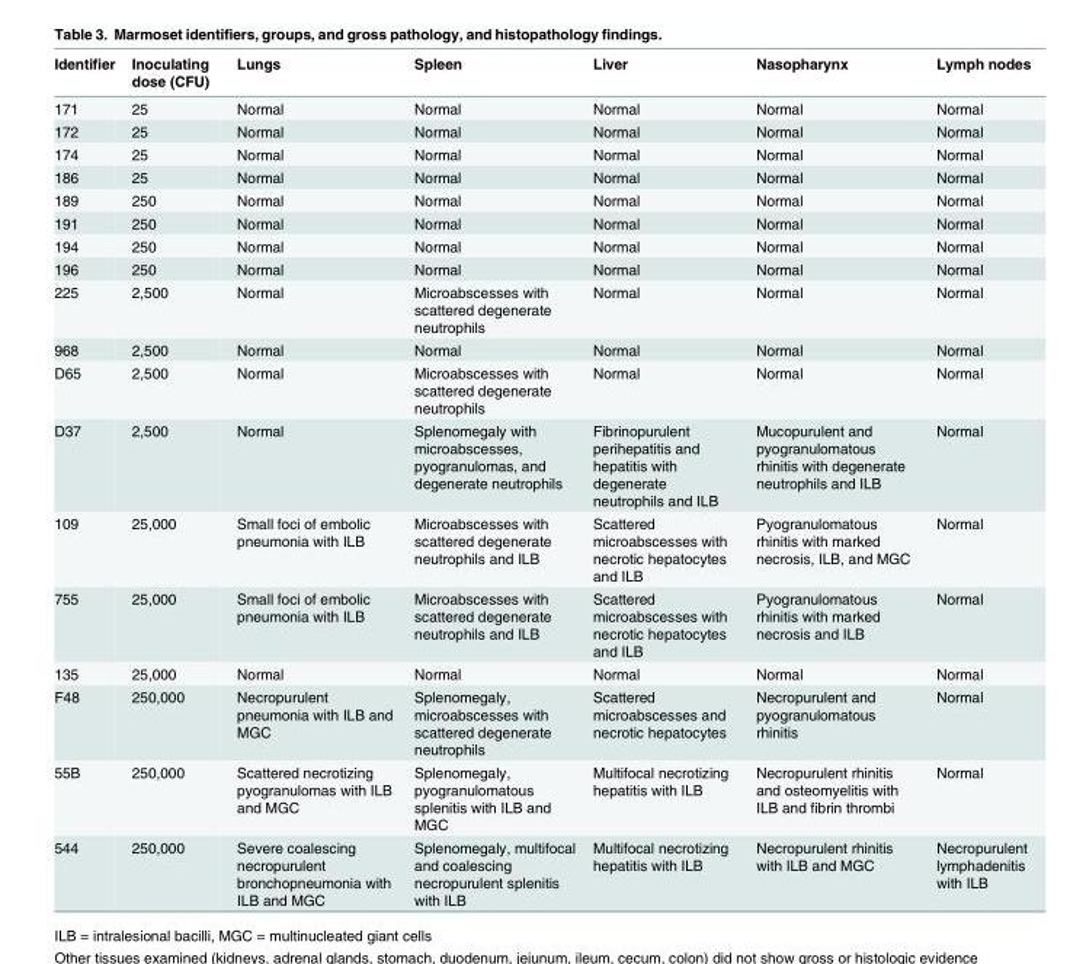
<table><thead><tr><td>Identifier</td><td>Inoculating dose (CFU)</td><td>Lungs</td><td>Spleen</td><td>Liver</td><td>Nasopharynx</td><td>Lymph nodes</td></tr></thead><tbody><tr><td>171</td><td>25</td><td>Normal</td><td>Normal</td><td>Normal</td><td>Normal</td><td>Normal</td></tr><tr><td>172</td><td>25</td><td>Normal</td><td>Normal</td><td>Normal</td><td>Normal</td><td>Normal</td></tr><tr><td>174</td><td>25</td><td>Normal</td><td>Normal</td><td>Normal</td><td>Normal</td><td>Normal</td></tr><tr><td>186</td><td>25</td><td>Normal</td><td>Normal</td><td>Normal</td><td>Normal</td><td>Normal</td></tr><tr><td>189</td><td>250</td><td>Normal</td><td>Normal</td><td>Normal</td><td>Normal</td><td>Normal</td></tr><tr><td>191</td><td>250</td><td>Normal</td><td>Normal</td><td>Normal</td><td>Normal</td><td>Normal</td></tr><tr><td>194</td><td>250</td><td>Normal</td><td>Normal</td><td>Normal</td><td>Normal</td><td>Normal</td></tr><tr><td>196</td><td>250</td><td>Normal</td><td>Normal</td><td>Normal</td><td>Normal</td><td>Normal</td></tr><tr><td>225</td><td>2,500</td><td>Normal</td><td>Microabscesses with scattered degenerate neutrophils</td><td>Normal</td><td>Normal</td><td>Normal</td></tr><tr><td>968</td><td>2,500</td><td>Normal</td><td>Normal</td><td>Normal</td><td>Normal</td><td>Normal</td></tr><tr><td>D65</td><td>2,500</td><td>Normal</td><td>Microabscesses with scattered degenerate neutrophils</td><td>Normal</td><td>Normal</td><td>Normal</td></tr><tr><td>D37</td><td>2,500</td><td>Normal</td><td>Splenomegaly with microabscesses, pyogranulomas, and degenerate neutrophils</td><td>Fibrinopurulent perihepatitis and hepatitis with degenerate neutrophils and ILB</td><td>Mucopurulent and pyogranulomatous rhinitis with degenerate neutrophils and ILB</td><td>Normal</td></tr><tr><td>109</td><td>25,000</td><td>Small foci of embolic pneumonia with ILB</td><td>Microabscesses with scattered degenerate neutrophils and ILB</td><td>Scattered microabscesses with necrotic hepatocytes and ILB</td><td>Pyogranulomatous rhinitis with marked necrosis, ILB, and MGC</td><td>Normal</td></tr><tr><td>755</td><td>25,000</td><td>Small foci of embolic pneumonia with ILB</td><td>Microabscesses with scattered degenerate neutrophils and ILB</td><td>Scattered microabscesses with necrotic hepatocytes and ILB</td><td>Pyogranulomatous rhinitis with marked necrosis and ILB</td><td>Normal</td></tr><tr><td>135</td><td>25,000</td><td>Normal</td><td>Normal</td><td>Normal</td><td>Normal</td><td>Normal</td></tr><tr><td>F48</td><td>250,000</td><td>Necropurulent pneumonia with ILB and MGC</td><td>Splenomegaly, microabscesses with scattered degenerate neutrophils</td><td>Scattered microabscesses and necrotic hepatocytes</td><td>Necropurulent and pyogranulomatous rhinitis</td><td>Normal</td></tr><tr><td>55B</td><td>250,000</td><td>Scattered necrotizing pyogranulomas with ILB and MGC</td><td>Splenomegaly, pyogranulomatous splenitis with ILB and MGC</td><td>Multifocal necrotizing hepatitis with ILB</td><td>Necropurulent rhinitis and osteomyelitis with ILB and fibrin thrombi</td><td>Normal</td></tr><tr><td>544</td><td>250,000</td><td>Severe coalescing necropurulent bronchopneumonia with ILB and MGC</td><td>Splenomegaly, multifocal and coalescing necropurulent splenitis with ILB</td><td>Multifocal necrotizing hepatitis with ILB</td><td>Necropurulent rhinitis with ILB and MGC</td><td>Necropurulent lymphadenitis with ILB</td></tr></tbody></table>